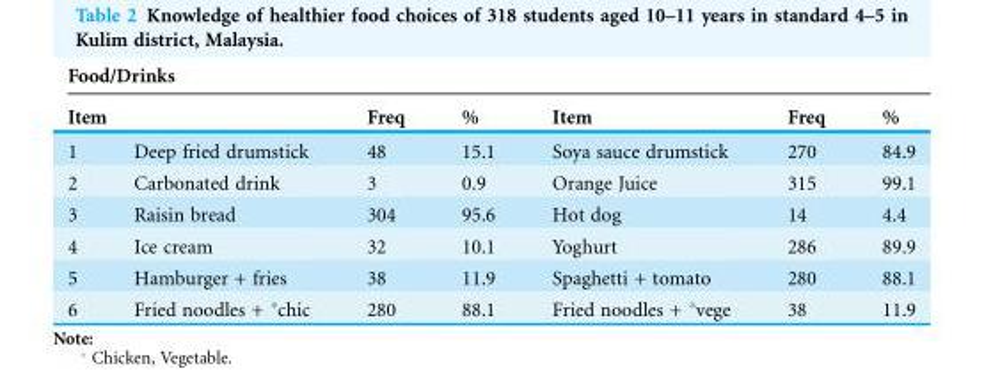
<table><thead><tr><td colspan="7">Food/Drinks</td></tr><tr><td colspan="2">Item</td><td rowspan="2">Freq 48</td><td rowspan="2">% 15.1</td><td rowspan="2">Item Soya sauce drumstick</td><td rowspan="2">Freq 270</td><td rowspan="2">% 84.9</td></tr><tr><td>1</td><td>Deep fried drumstick</td></tr></thead><tbody><tr><td>2</td><td>Carbonated drink</td><td>3</td><td>0.9</td><td>Orange Juice</td><td>315</td><td>99.1</td></tr><tr><td>3</td><td>Raisin bread</td><td>304</td><td>95.6</td><td>Hot dog</td><td>14</td><td>4.4</td></tr><tr><td>4</td><td>Ice cream</td><td>32</td><td>10.1</td><td>Yoghurt</td><td>286</td><td>89.9</td></tr><tr><td>5</td><td>Hamburger + fries</td><td>38</td><td>11.9</td><td>Spaghetti + tomato</td><td>280</td><td>88.1</td></tr><tr><td>6</td><td>Fried noodles + *chic</td><td>280</td><td>88.1</td><td>Fried noodles + *vege</td><td>38</td><td>11.9</td></tr></tbody></table>